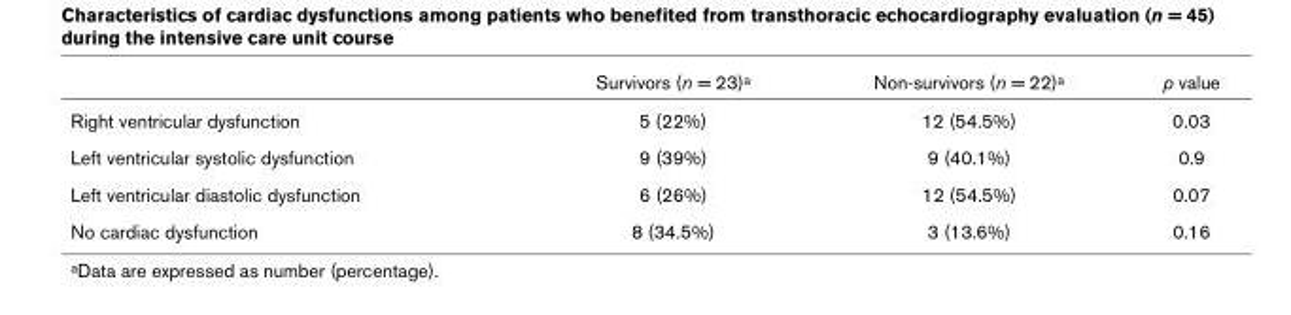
<table><thead><tr><td></td><td>Survivors (n = 23)<sup>a</sup></td><td>Non-survivors (n = 22)<sup>a</sup></td><td>p value</td></tr></thead><tbody><tr><td>Right ventricular dysfunction</td><td>5 (22%)</td><td>12 (54.5%)</td><td>0.03</td></tr><tr><td>Left ventricular systolic dysfunction</td><td>9 (39%)</td><td>9 (40.1%)</td><td>0.9</td></tr><tr><td>Left ventricular diastolic dysfunction</td><td>6 (26%)</td><td>12 (54.5%)</td><td>0.07</td></tr><tr><td>No cardiac dysfunction</td><td>8 (34.5%)</td><td>3 (13.6%)</td><td>0.16</td></tr></tbody></table>